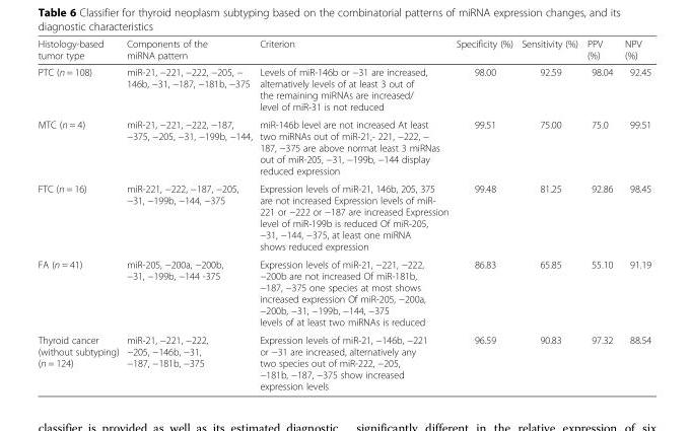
<table><thead><tr><td>Histology-based tumor type</td><td>Components of the miRNA pattern</td><td>Criterion</td><td>Specificity (%)</td><td>Sensitivity (%)</td><td>PPV (%)</td><td>NPV (%)</td></tr></thead><tbody><tr><td>PTC (n = 108)</td><td>miR-21, −221, −222, −205, − 146b, −31, −187, −181b, −375</td><td>Levels of miR-146b or −31 are increased, alternatively levels of at least 3 out of the remaining miRNAs are increased/ level of miR-31 is not reduced</td><td>98.00</td><td>92.59</td><td>98.04</td><td>92.45</td></tr><tr><td>MTC (n = 4)</td><td>miR-21, −221, −222, −187, −375, −205, −31, −199b, −144,</td><td>miR-146b level are not increased At least two miRNAs out of miR-21,- 221, −222, − 187, −375 are above normat least 3 miRNas out of miR-205, −31, −199b, −144 display reduced expression</td><td>99.51</td><td>75.00</td><td>75.0</td><td>99.51</td></tr><tr><td>FTC (n = 16)</td><td>miR-221, −222, −187, −205, −31, −199b, −144, −375</td><td>Expression levels of miR-21, 146b, 205, 375 are not increased Expression levels of miR- 221 or −222 or −187 are increased Expression level of miR-199b is reduced Of miR-205, −31, −144, −375, at least one miRNA shows reduced expression</td><td>99.48</td><td>81.25</td><td>92.86</td><td>98.45</td></tr><tr><td>FA (n = 41)</td><td>miR-205, −200a, −200b, −31, −199b, −144 -375</td><td>Expression levels of miR-21, −221, −222, −200b are not increased Of miR-181b, −187, −375 one species at most shows increased expression Of miR-205, −200а, −200b, −31, −199b, −144, −375 levels of at least two miRNAs is reduced</td><td>86.83</td><td>65.85</td><td>55.10</td><td>91.19</td></tr><tr><td>Thyroid cancer (without subtyping) (n = 124)</td><td>miR-21, −221, −222, −205, −146b, −31, −187, −181b, −375</td><td>Expression levels of miR-21, −146b, −221 or −31 are increased, alternatively any two species out of miR-222, −205, −181b, −187, −375 show increased expression levels</td><td>96.59</td><td>90.83</td><td>97.32</td><td>88.54</td></tr></tbody></table>